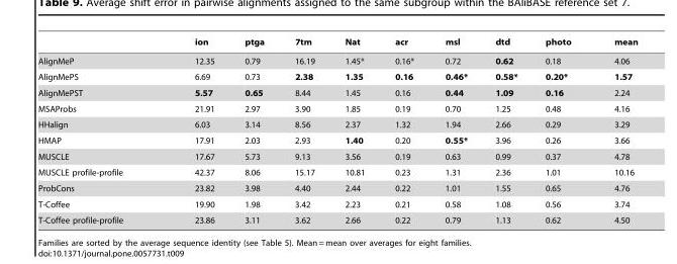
<table><thead><tr><td></td><td>ion</td><td>ptga</td><td>7tm</td><td>Nat</td><td>acr</td><td>msl</td><td>dtd</td><td>photo</td><td>mean</td></tr></thead><tbody><tr><td>AlignMeP</td><td>12.35</td><td>0.79</td><td>16.19</td><td>1.45*</td><td>0.16*</td><td>0.72</td><td>0.62</td><td>0.18</td><td>4.06</td></tr><tr><td>AlignMePS</td><td>6.69</td><td>0.73</td><td>2.38</td><td>1.35</td><td>0.16</td><td>0.46*</td><td>0.58*</td><td>0.20*</td><td>1.57</td></tr><tr><td>AlignMePST</td><td>5.57</td><td>0.65</td><td>8.44</td><td>1.45</td><td>0.16</td><td>0.44</td><td>1.09</td><td>0.16</td><td>2.24</td></tr><tr><td>MSAProbs</td><td>21.91</td><td>2.97</td><td>3.90</td><td>1.85</td><td>0.19</td><td>0.70</td><td>1.25</td><td>0.48</td><td>4.16</td></tr><tr><td>HHalign</td><td>6.03</td><td>3.14</td><td>8.56</td><td>2.37</td><td>1.32</td><td>1.94</td><td>2.66</td><td>0.29</td><td>3.29</td></tr><tr><td>HMAP</td><td>17.91</td><td>2.03</td><td>2.93</td><td>1.40</td><td>0.20</td><td>0.55*</td><td>3.96</td><td>0.26</td><td>3.66</td></tr><tr><td>MUSCLE</td><td>17.67</td><td>5.73</td><td>9.13</td><td>3.56</td><td>0.19</td><td>0.63</td><td>0.99</td><td>0.37</td><td>4.78</td></tr><tr><td>MUSCLE profile-profile</td><td>42.37</td><td>8.06</td><td>15.17</td><td>10.81</td><td>0.23</td><td>1.31</td><td>2.36</td><td>1.01</td><td>10.16</td></tr><tr><td>ProbCons</td><td>23.82</td><td>3.98</td><td>4.40</td><td>2.44</td><td>0.22</td><td>1.01</td><td>1.55</td><td>0.65</td><td>4.76</td></tr><tr><td>T-Coffee</td><td>19.90</td><td>1.98</td><td>3.42</td><td>2.23</td><td>0.21</td><td>0.58</td><td>1.08</td><td>0.56</td><td>3.74</td></tr><tr><td>T-Coffee profile-profile</td><td>23.86</td><td>3.11</td><td>3.62</td><td>2.66</td><td>0.22</td><td>0.79</td><td>1.13</td><td>0.62</td><td>4.50</td></tr></tbody></table>